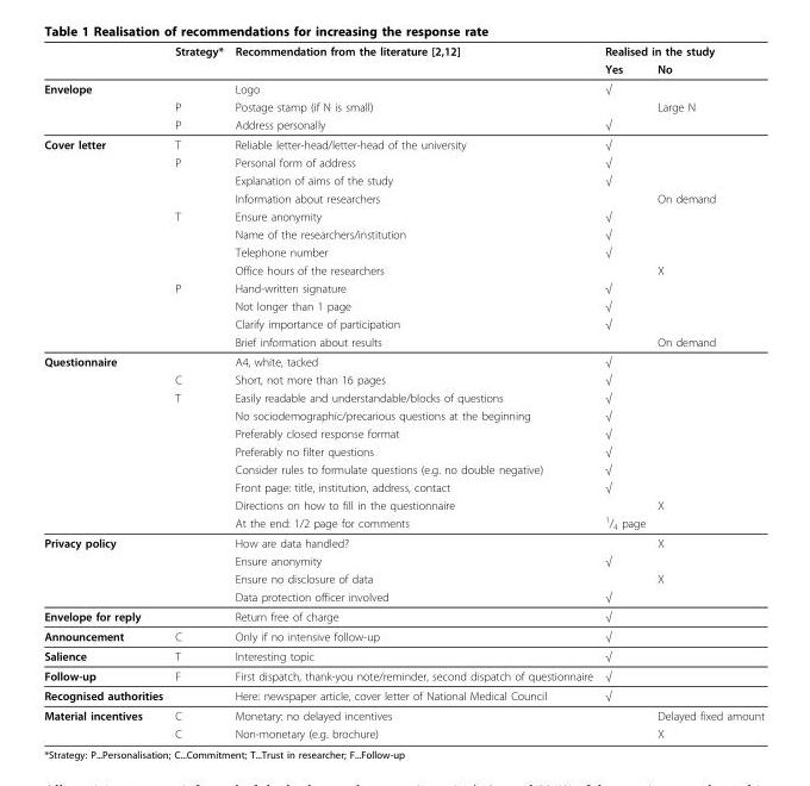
<table><thead><tr><td rowspan="2"></td><td rowspan="2">Strategy*</td><td rowspan="2">Recommendation from the literature [2,12]</td><td colspan="2">Realised in the study</td></tr><tr><td>Yes</td><td>No</td></tr></thead><tbody><tr><td rowspan="3">Envelope</td><td></td><td>Logo</td><td>√</td><td></td></tr><tr><td>P</td><td>Postage stamp (if N is small)</td><td></td><td>Large N</td></tr><tr><td>P</td><td>Address personally</td><td>√</td><td></td></tr><tr><td rowspan="12">Cover letter</td><td>T</td><td>Reliable letter-head/letter-head of the university</td><td>√</td><td></td></tr><tr><td>P</td><td>Personal form of address</td><td>√</td><td></td></tr><tr><td></td><td>Explanation of aims of the study</td><td>√</td><td></td></tr><tr><td></td><td>Information about researchers</td><td></td><td>On demand</td></tr><tr><td>T</td><td>Ensure anonymity</td><td>√</td><td></td></tr><tr><td></td><td>Name of the researchers/institution</td><td>√</td><td></td></tr><tr><td></td><td>Telephone number</td><td>√</td><td></td></tr><tr><td></td><td>Office hours of the researchers</td><td></td><td>X</td></tr><tr><td>P</td><td>Hand-written signature</td><td>√</td><td></td></tr><tr><td></td><td>Not longer than 1 page</td><td>√</td><td></td></tr><tr><td></td><td>Clarify importance of participation</td><td>√</td><td></td></tr><tr><td></td><td>Brief information about results</td><td></td><td>On demand</td></tr><tr><td rowspan="10">Questionnaire</td><td></td><td>A4, white, tacked</td><td>√</td><td></td></tr><tr><td>C</td><td>Short, not more than 16 pages</td><td>√</td><td></td></tr><tr><td>T</td><td>Easily readable and understandable/blocks of questions</td><td>√</td><td></td></tr><tr><td></td><td>No sociodemographic/precarious questions at the beginning</td><td>√</td><td></td></tr><tr><td></td><td>Preferably closed response format</td><td>√</td><td></td></tr><tr><td></td><td>Preferably no filter questions</td><td>√</td><td></td></tr><tr><td></td><td>Consider rules to formulate questions (e.g. no double negative)</td><td>√</td><td></td></tr><tr><td></td><td>Front page: title, institution, address, contact</td><td>√</td><td></td></tr><tr><td></td><td>Directions on how to fill in the questionnaire</td><td></td><td>X</td></tr><tr><td></td><td>At the end: 1/2 page for comments</td><td><sup>1</sup>/<sub>4</sub> page</td><td></td></tr><tr><td rowspan="4">Privacy policy</td><td></td><td>How are data handled?</td><td></td><td>X</td></tr><tr><td></td><td>Ensure anonymity</td><td>√</td><td></td></tr><tr><td></td><td>Ensure no disclosure of data</td><td></td><td>X</td></tr><tr><td></td><td>Data protection officer involved</td><td>√</td><td></td></tr><tr><td>Envelope for reply</td><td></td><td>Return free of charge</td><td>√</td><td></td></tr><tr><td>Announcement</td><td>C</td><td>Only if no intensive follow-up</td><td>√</td><td></td></tr><tr><td>Salience</td><td>T</td><td>Interesting topic</td><td>√</td><td></td></tr><tr><td>Follow-up</td><td>F</td><td>First dispatch, thank-you note/reminder, second dispatch of questionnaire</td><td>√</td><td></td></tr><tr><td>Recognised authorities</td><td></td><td>Here: newspaper article, cover letter of National Medical Council</td><td>√</td><td></td></tr><tr><td rowspan="2">Material incentives</td><td>C</td><td>Monetary: no delayed incentives</td><td></td><td>Delayed fixed amount</td></tr><tr><td>C</td><td>Non-monetary (e.g. brochure)</td><td></td><td>X</td></tr></tbody></table>